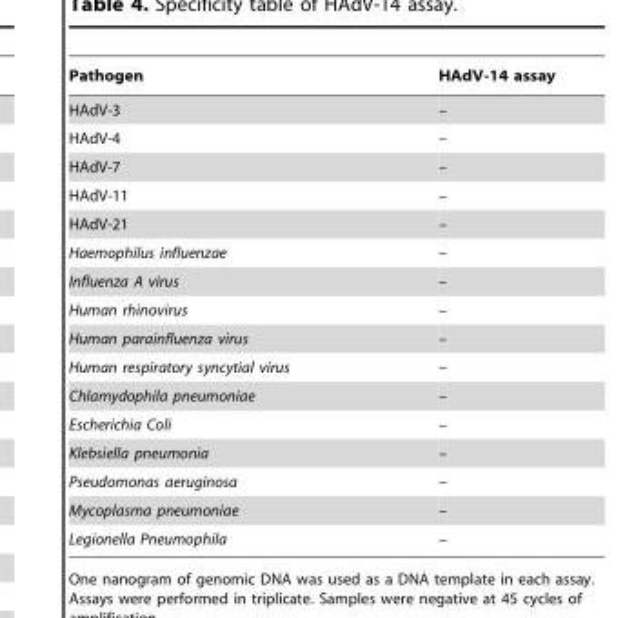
<table><thead><tr><td>Pathogen</td><td>HAdV-14 assay</td></tr></thead><tbody><tr><td>HAdV-3</td><td>–</td></tr><tr><td>HAdV-4</td><td>–</td></tr><tr><td>HAdV-7</td><td>–</td></tr><tr><td>HAdV-11</td><td>–</td></tr><tr><td>HAdV-21</td><td>–</td></tr><tr><td>Haemophilus influenzae</td><td>–</td></tr><tr><td>Influenza A virus</td><td>–</td></tr><tr><td>Human rhinovirus</td><td>–</td></tr><tr><td>Human parainfluenza virus</td><td>–</td></tr><tr><td>Human respiratory syncytial virus</td><td>–</td></tr><tr><td>Chlamydophila pneumoniae</td><td>–</td></tr><tr><td>Escherichia Coli</td><td>–</td></tr><tr><td>Klebsiella pneumonia</td><td>–</td></tr><tr><td>Pseudomonas aeruginosa</td><td>–</td></tr><tr><td>Mycoplasma pneumoniae</td><td>–</td></tr><tr><td>Legionella Pneumophila</td><td>–</td></tr></tbody></table>